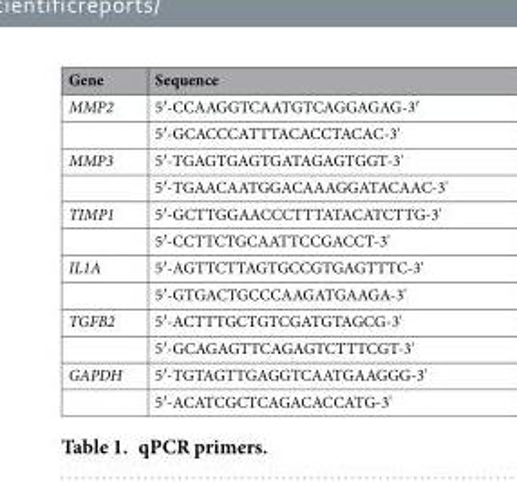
<table><thead><tr><td>Gene</td><td>Sequence</td></tr></thead><tbody><tr><td rowspan="2">MMP2</td><td>5′ -CCAAGGTCAATGTCAGGAGAG-3′</td></tr><tr><td>5′ -GCACCCATTTACACCTACAC-3&#x27;</td></tr><tr><td rowspan="2">MMP3</td><td>5′ -TGAGTGAGTGATAGAGTGGT-3&#x27;</td></tr><tr><td>5′ -TGAACAATGGACAAAGGATACAAC-3&#x27;</td></tr><tr><td rowspan="2">TIMP1</td><td>5′ -GCTTGGAACCCTTTATACATCTTG-3&#x27;</td></tr><tr><td>5′ -CCTTCTGCAATTCCGACCT-3&#x27;</td></tr><tr><td rowspan="2">IL1A</td><td>5′ -AGTTCTTAGTGCCGTGAGTTTC-3&#x27;</td></tr><tr><td>5′ -GTGACTGCCCAAGATGAAGA-3&#x27;</td></tr><tr><td rowspan="2">TGFB2</td><td>5′ -ACTTTGCTGTCGATGTAGCG-3&#x27;</td></tr><tr><td>5′ -GCAGAGTTCAGAGTCTTTCGT-3&#x27;</td></tr><tr><td rowspan="2">GAPDH</td><td>5′ -TGTAGTTGAGGTCAATGAAGGG-3&#x27;</td></tr><tr><td>5′ -ACATCGCTCAGACACCATG-3&#x27;</td></tr></tbody></table>